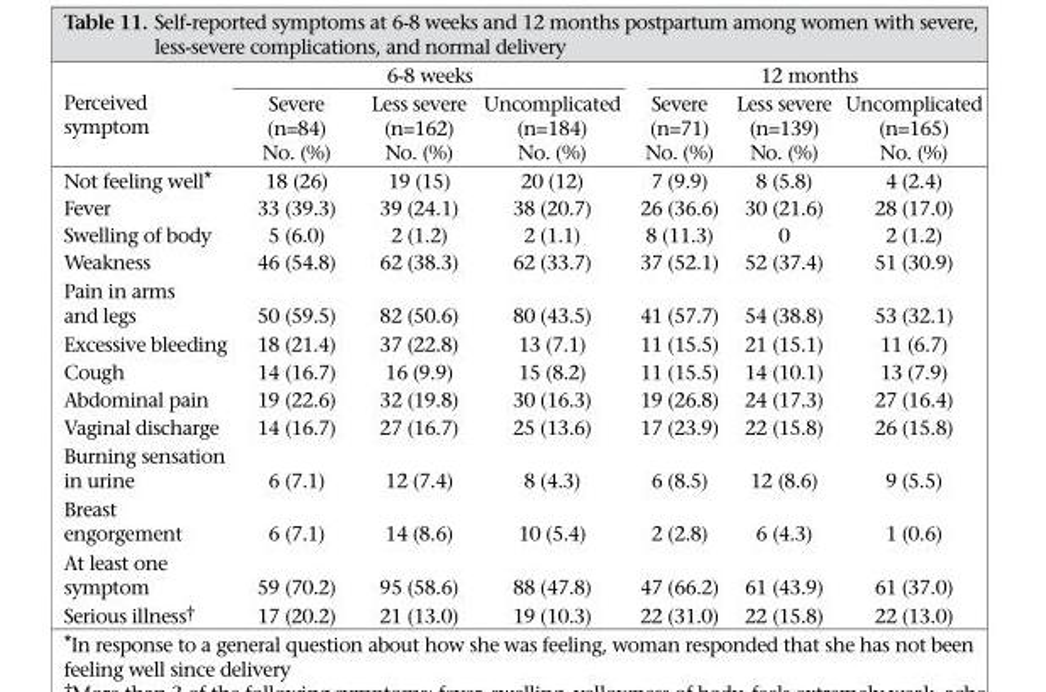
<table><thead><tr><td rowspan="2">Perceived symptom</td><td colspan="3">6-8 weeks</td><td colspan="3">12 months</td></tr><tr><td>Severe (n=84) No. (%)</td><td>Less severe (n=162) No. (%)</td><td>Uncomplicated (n=184) No. (%)</td><td>Severe (n=71) No. (%)</td><td>Less severe (n=139) No. (%)</td><td>Uncomplicated (n=165) No. (%)</td></tr></thead><tbody><tr><td>Not feeling well*</td><td>18 (26)</td><td>19 (15)</td><td>20 (12)</td><td>7 (9.9)</td><td>8 (5.8)</td><td>4 (2.4)</td></tr><tr><td>Fever</td><td>33 (39.3)</td><td>39 (24.1)</td><td>38 (20.7)</td><td>26 (36.6)</td><td>30 (21.6)</td><td>28 (17.0)</td></tr><tr><td>Swelling of body</td><td>5 (6.0)</td><td>2 (1.2)</td><td>2 (1.1)</td><td>8 (11.3)</td><td>0</td><td>2 (1.2)</td></tr><tr><td>Weakness</td><td>46 (54.8)</td><td>62 (38.3)</td><td>62 (33.7)</td><td>37 (52.1)</td><td>52 (37.4)</td><td>51 (30.9)</td></tr><tr><td>Pain in arms and legs</td><td>50 (59.5)</td><td>82 (50.6)</td><td>80 (43.5)</td><td>41 (57.7)</td><td>54 (38.8)</td><td>53 (32.1)</td></tr><tr><td>Excessive bleeding</td><td>18 (21.4)</td><td>37 (22.8)</td><td>13 (7.1)</td><td>11 (15.5)</td><td>21 (15.1)</td><td>11 (6.7)</td></tr><tr><td>Cough</td><td>14 (16.7)</td><td>16 (9.9)</td><td>15 (8.2)</td><td>11 (15.5)</td><td>14 (10.1)</td><td>13 (7.9)</td></tr><tr><td>Abdominal pain</td><td>19 (22.6)</td><td>32 (19.8)</td><td>30 (16.3)</td><td>19 (26.8)</td><td>24 (17.3)</td><td>27 (16.4)</td></tr><tr><td>Vaginal discharge</td><td>14 (16.7)</td><td>27 (16.7)</td><td>25 (13.6)</td><td>17 (23.9)</td><td>22 (15.8)</td><td>26 (15.8)</td></tr><tr><td>Burning sensation in urine</td><td>6 (7.1)</td><td>12 (7.4)</td><td>8 (4.3)</td><td>6 (8.5)</td><td>12 (8.6)</td><td>9 (5.5)</td></tr><tr><td>Breast engorgement</td><td>6 (7.1)</td><td>14 (8.6)</td><td>10 (5.4)</td><td>2 (2.8)</td><td>6 (4.3)</td><td>1 (0.6)</td></tr><tr><td>At least one symptom</td><td>59 (70.2)</td><td>95 (58.6)</td><td>88 (47.8)</td><td>47 (66.2)</td><td>61 (43.9)</td><td>61 (37.0)</td></tr><tr><td>Serious illness†</td><td>17 (20.2)</td><td>21 (13.0)</td><td>19 (10.3)</td><td>22 (31.0)</td><td>22 (15.8)</td><td>22 (13.0)</td></tr></tbody></table>